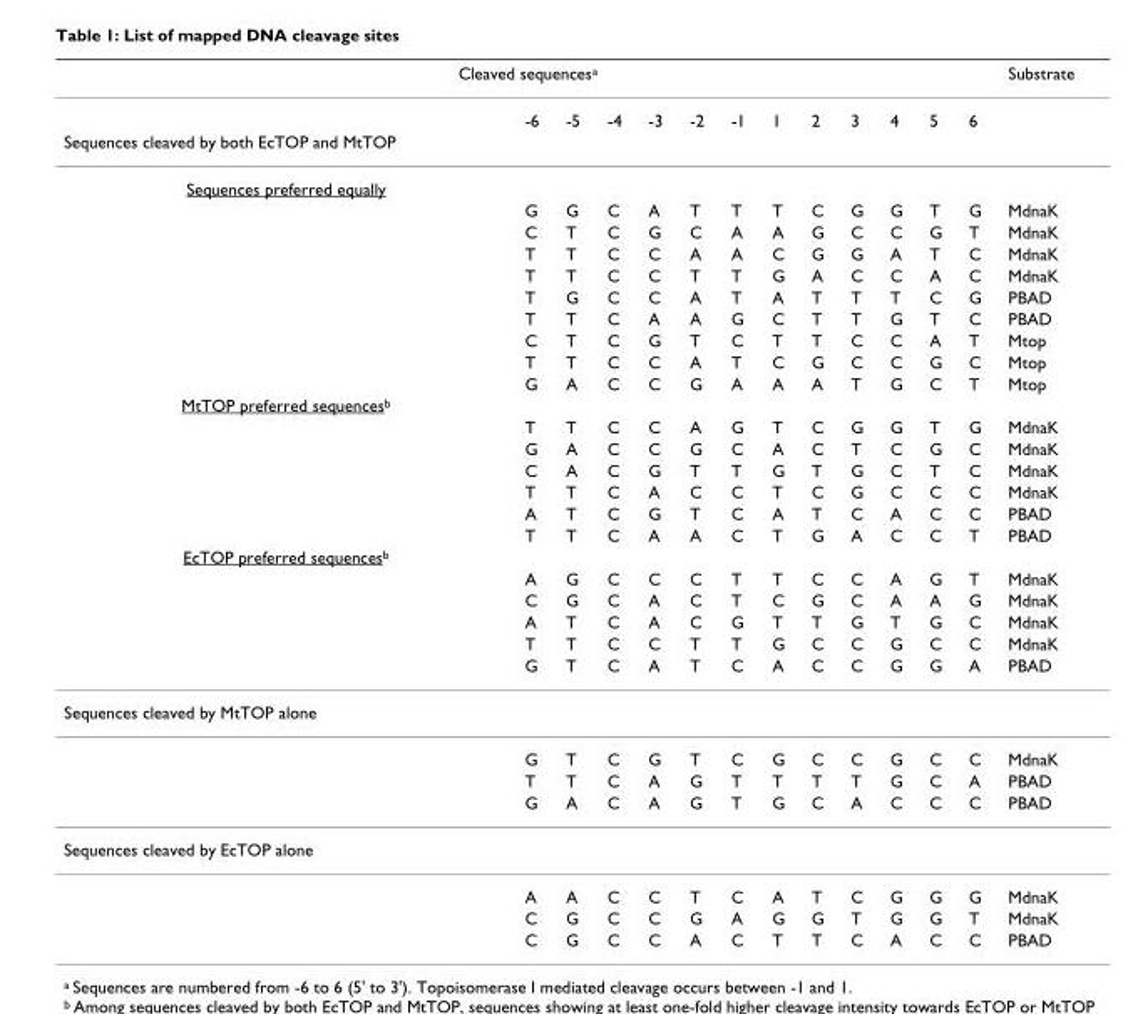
<table><thead><tr><td colspan="13">Cleaved sequences<sup>a</sup></td><td rowspan="2">Substrate</td></tr><tr><td></td><td>-6</td><td>-5</td><td>-4</td><td>-3</td><td>-2</td><td>-1</td><td>1</td><td>2</td><td>3</td><td>4</td><td>5</td><td>6</td></tr></thead><tbody><tr><td colspan="14">Sequences cleaved by both EcTOP and MtTOP</td></tr><tr><td colspan="14">Sequences preferred equally</td></tr><tr><td></td><td>G</td><td>G</td><td>C</td><td>A</td><td>T</td><td>T</td><td>T</td><td>C</td><td>G</td><td>G</td><td>T</td><td>G</td><td>MdnaK</td></tr><tr><td></td><td>C</td><td>T</td><td>C</td><td>G</td><td>C</td><td>A</td><td>A</td><td>G</td><td>C</td><td>C</td><td>G</td><td>T</td><td>MdnaK</td></tr><tr><td></td><td>T</td><td>T</td><td>C</td><td>C</td><td>A</td><td>A</td><td>C</td><td>G</td><td>G</td><td>A</td><td>T</td><td>C</td><td>MdnaK</td></tr><tr><td></td><td>T</td><td>T</td><td>C</td><td>C</td><td>T</td><td>T</td><td>G</td><td>A</td><td>C</td><td>C</td><td>A</td><td>C</td><td>MdnaK</td></tr><tr><td></td><td>T</td><td>G</td><td>C</td><td>C</td><td>A</td><td>T</td><td>A</td><td>T</td><td>T</td><td>T</td><td>C</td><td>G</td><td>PBAD</td></tr><tr><td></td><td>T</td><td>T</td><td>C</td><td>A</td><td>A</td><td>G</td><td>C</td><td>T</td><td>T</td><td>G</td><td>T</td><td>C</td><td>PBAD</td></tr><tr><td></td><td>C</td><td>T</td><td>C</td><td>G</td><td>T</td><td>C</td><td>T</td><td>T</td><td>C</td><td>C</td><td>A</td><td>T</td><td>Mtop</td></tr><tr><td></td><td>T</td><td>T</td><td>C</td><td>C</td><td>A</td><td>T</td><td>C</td><td>G</td><td>C</td><td>C</td><td>G</td><td>C</td><td>Mtop</td></tr><tr><td></td><td>G</td><td>A</td><td>C</td><td>C</td><td>G</td><td>A</td><td>A</td><td>A</td><td>T</td><td>G</td><td>C</td><td>T</td><td>Mtop</td></tr><tr><td colspan="14">MtTOP preferred sequences<sup>b</sup></td></tr><tr><td></td><td>T</td><td>T</td><td>C</td><td>C</td><td>A</td><td>G</td><td>T</td><td>C</td><td>G</td><td>G</td><td>T</td><td>G</td><td>MdnaK</td></tr><tr><td></td><td>G</td><td>A</td><td>C</td><td>C</td><td>G</td><td>C</td><td>A</td><td>C</td><td>T</td><td>C</td><td>G</td><td>C</td><td>MdnaK</td></tr><tr><td></td><td>C</td><td>A</td><td>C</td><td>G</td><td>T</td><td>T</td><td>G</td><td>T</td><td>G</td><td>C</td><td>T</td><td>C</td><td>MdnaK</td></tr><tr><td></td><td>T</td><td>T</td><td>C</td><td>A</td><td>C</td><td>C</td><td>T</td><td>C</td><td>G</td><td>C</td><td>C</td><td>C</td><td>MdnaK</td></tr><tr><td></td><td>A</td><td>T</td><td>C</td><td>G</td><td>T</td><td>C</td><td>A</td><td>T</td><td>C</td><td>A</td><td>C</td><td>C</td><td>PBAD</td></tr><tr><td></td><td>T</td><td>T</td><td>C</td><td>A</td><td>A</td><td>C</td><td>T</td><td>G</td><td>A</td><td>C</td><td>C</td><td>T</td><td>PBAD</td></tr><tr><td colspan="14">EcTOP preferred sequences<sup>b</sup></td></tr><tr><td></td><td>A</td><td>G</td><td>C</td><td>C</td><td>C</td><td>T</td><td>T</td><td>C</td><td>C</td><td>A</td><td>G</td><td>T</td><td>MdnaK</td></tr><tr><td></td><td>C</td><td>G</td><td>C</td><td>A</td><td>C</td><td>T</td><td>C</td><td>G</td><td>C</td><td>A</td><td>A</td><td>G</td><td>MdnaK</td></tr><tr><td></td><td>A</td><td>T</td><td>C</td><td>A</td><td>C</td><td>G</td><td>T</td><td>T</td><td>G</td><td>T</td><td>G</td><td>C</td><td>MdnaK</td></tr><tr><td></td><td>T</td><td>T</td><td>C</td><td>C</td><td>T</td><td>T</td><td>G</td><td>C</td><td>C</td><td>G</td><td>C</td><td>C</td><td>MdnaK</td></tr><tr><td></td><td>G</td><td>T</td><td>C</td><td>A</td><td>T</td><td>C</td><td>A</td><td>C</td><td>C</td><td>G</td><td>G</td><td>A</td><td>PBAD</td></tr><tr><td colspan="14">Sequences cleaved by MtTOP alone</td></tr><tr><td></td><td>G</td><td>T</td><td>C</td><td>G</td><td>T</td><td>C</td><td>G</td><td>C</td><td>C</td><td>G</td><td>C</td><td>C</td><td>MdnaK</td></tr><tr><td></td><td>T</td><td>T</td><td>C</td><td>A</td><td>G</td><td>T</td><td>T</td><td>T</td><td>T</td><td>G</td><td>C</td><td>A</td><td>PBAD</td></tr><tr><td></td><td>G</td><td>A</td><td>C</td><td>A</td><td>G</td><td>T</td><td>G</td><td>C</td><td>A</td><td>C</td><td>C</td><td>C</td><td>PBAD</td></tr><tr><td colspan="14">Sequences cleaved by EcTOP alone</td></tr><tr><td></td><td>A</td><td>A</td><td>C</td><td>C</td><td>T</td><td>C</td><td>A</td><td>T</td><td>C</td><td>G</td><td>G</td><td>G</td><td>MdnaK</td></tr><tr><td></td><td>C</td><td>G</td><td>C</td><td>C</td><td>G</td><td>A</td><td>G</td><td>G</td><td>T</td><td>G</td><td>G</td><td>T</td><td>MdnaK</td></tr><tr><td></td><td>C</td><td>G</td><td>C</td><td>C</td><td>A</td><td>C</td><td>T</td><td>T</td><td>C</td><td>A</td><td>C</td><td>C</td><td>PBAD</td></tr></tbody></table>